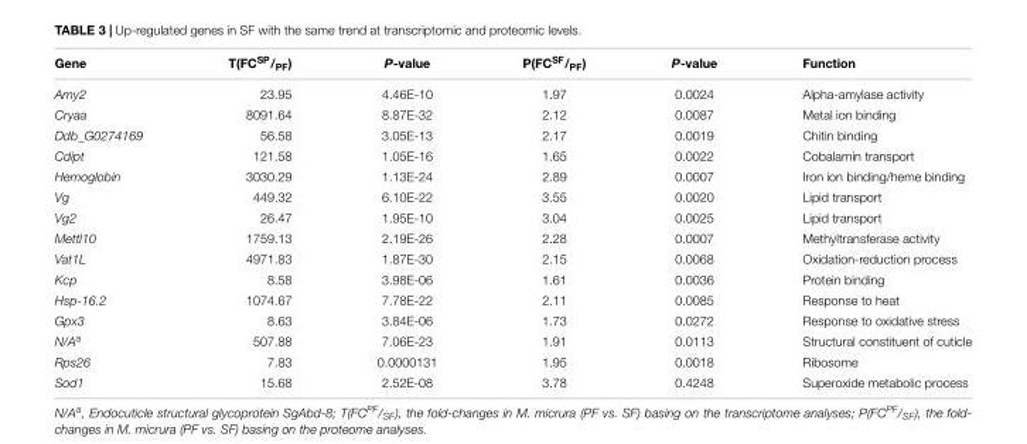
<table><thead><tr><td>Gene</td><td>T(FC<sup>SP</sup>/<sub>PF</sub>)</td><td>P-value</td><td>P(FC<sup>SF</sup>/<sub>PF</sub>)</td><td>P-value</td><td>Function</td></tr></thead><tbody><tr><td>Amy2</td><td>23.95</td><td>4.46E-10</td><td>1.97</td><td>0.0024</td><td>Alpha-amylase activity</td></tr><tr><td>Cryaa</td><td>8091.64</td><td>8.87E-32</td><td>2.12</td><td>0.0087</td><td>Metal ion binding</td></tr><tr><td>Ddb_G0274169</td><td>56.58</td><td>3.05E-13</td><td>2.17</td><td>0.0019</td><td>Chitin binding</td></tr><tr><td>Cdipt</td><td>121.58</td><td>1.05E-16</td><td>1.65</td><td>0.0022</td><td>Cobalamin transport</td></tr><tr><td>Hemoglobin</td><td>3030.29</td><td>1.13E-24</td><td>2.89</td><td>0.0007</td><td>Iron ion binding/heme binding</td></tr><tr><td>Vg</td><td>449.32</td><td>6.10E-22</td><td>3.55</td><td>0.0020</td><td>Lipid transport</td></tr><tr><td>Vg2</td><td>26.47</td><td>1.95E-10</td><td>3.04</td><td>0.0025</td><td>Lipid transport</td></tr><tr><td>Mettl10</td><td>1759.13</td><td>2.19E-26</td><td>2.28</td><td>0.0007</td><td>Methyltransferase activity</td></tr><tr><td>Vat1L</td><td>4971.83</td><td>1.87E-30</td><td>2.15</td><td>0.0068</td><td>Oxidation-reduction process</td></tr><tr><td>Kcp</td><td>8.58</td><td>3.98E-06</td><td>1.61</td><td>0.0036</td><td>Protein binding</td></tr><tr><td>Hsp-16.2</td><td>1074.67</td><td>7.78E-22</td><td>2.11</td><td>0.0085</td><td>Response to heat</td></tr><tr><td>Gpx3</td><td>8.63</td><td>3.84E-06</td><td>1.73</td><td>0.0272</td><td>Response to oxidative stress</td></tr><tr><td>N/A<sup>a</sup></td><td>507.88</td><td>7.06E-23</td><td>1.91</td><td>0.0113</td><td>Structural constituent of cuticle</td></tr><tr><td>Rps26</td><td>7.83</td><td>0.0000131</td><td>1.95</td><td>0.0018</td><td>Ribosome</td></tr><tr><td>Sod1</td><td>15.68</td><td>2.52E-08</td><td>3.78</td><td>0.4248</td><td>Superoxide metabolic process</td></tr></tbody></table>